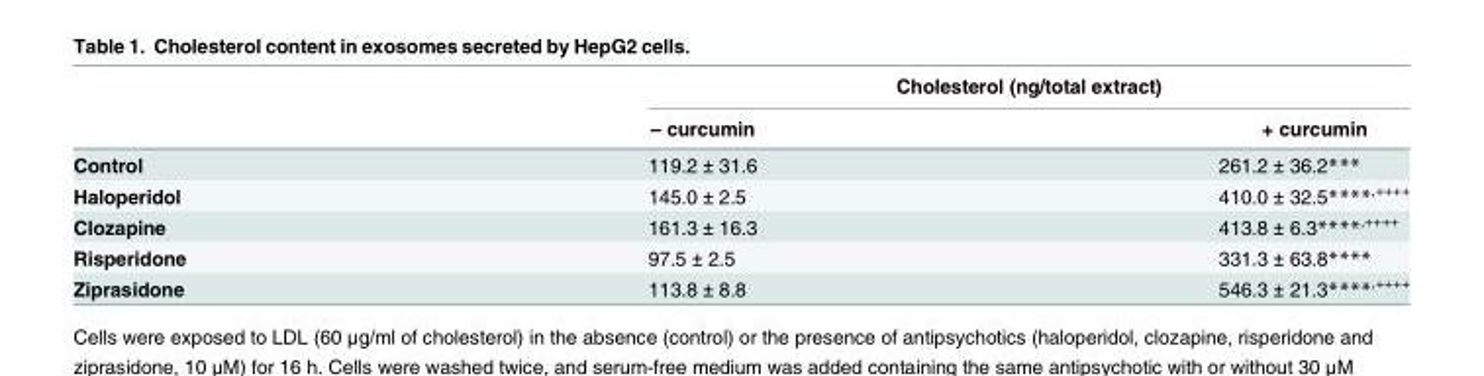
<table><thead><tr><td rowspan="2"></td><td colspan="2">Cholesterol (ng/total extract)</td></tr><tr><td>– curcumin</td><td>+ curcumin</td></tr></thead><tbody><tr><td>Control</td><td>119.2 ± 31.6</td><td>261.2 ± 36.2***</td></tr><tr><td>Haloperidol</td><td>145.0 ± 2.5</td><td>410.0 ± 32.5****<sup>,++++</sup></td></tr><tr><td>Clozapine</td><td>161.3 ± 16.3</td><td>413.8 ± 6.3****<sup>,++++</sup></td></tr><tr><td>Risperidone</td><td>97.5 ± 2.5</td><td>331.3 ± 63.8****</td></tr><tr><td>Ziprasidone</td><td>113.8 ± 8.8</td><td>546.3 ± 21.3****<sup>,++++</sup></td></tr></tbody></table>